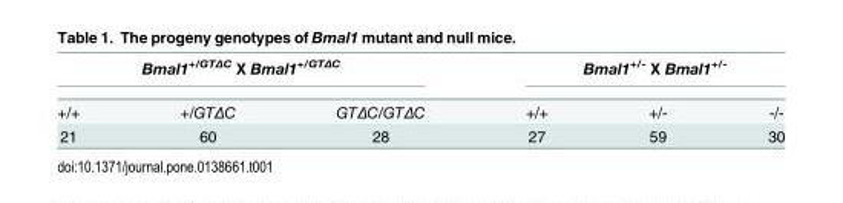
<table><thead><tr><td colspan="3">Bmal1<sup>+/GTΔC</sup> X Bmal1<sup>+/GTΔC</sup></td><td colspan="3">Bmal1<sup>+/-</sup> X Bmal1<sup>+/-</sup></td></tr><tr><td>+/+</td><td>+/GTΔC</td><td>GTΔC/GTΔC</td><td>+/+</td><td>+/-</td><td>-/-</td></tr></thead><tbody><tr><td>21</td><td>60</td><td>28</td><td>27</td><td>59</td><td>30</td></tr></tbody></table>